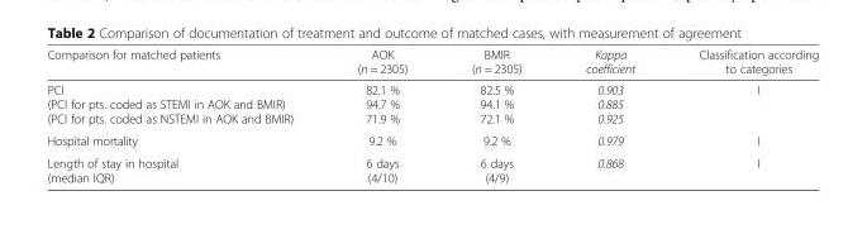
<table><thead><tr><td>Comparison for matched patients</td><td>AOK (n = 2305)</td><td>BMIR (n = 2305)</td><td>Kappa coefficient</td><td>Classification according to categories</td></tr></thead><tbody><tr><td>PCI (PCI for pts. coded as STEMI in AOK and BMIR) (PCI for pts. coded as NSTEMI in AOK and BMIR)</td><td>82.1 % 94.7 % 71.9 %</td><td>82.5 % 94.1 % 72.1 %</td><td>0.903 0.885 0.925</td><td>I</td></tr><tr><td>Hospital mortality</td><td>9.2 %</td><td>9.2 %</td><td>0.979</td><td>I</td></tr><tr><td>Length of stay in hospital (median IQR)</td><td>6 days (4/10)</td><td>6 days (4/9)</td><td>0.868</td><td>I</td></tr></tbody></table>